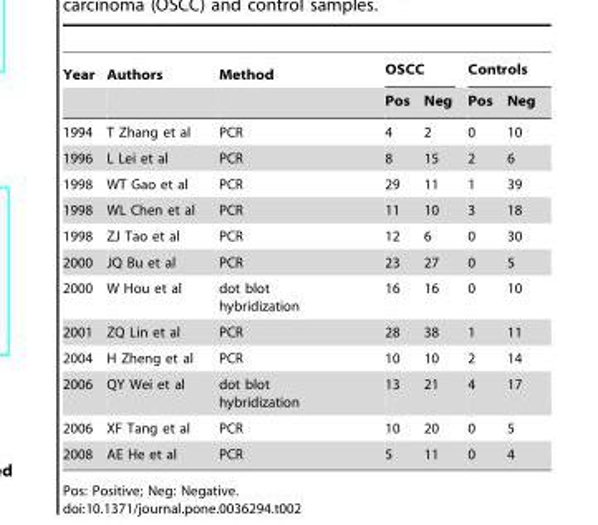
<table><thead><tr><td rowspan="2">Year</td><td rowspan="2">Authors</td><td rowspan="2">Method</td><td colspan="2">OSCC</td><td colspan="2">Controls</td></tr><tr><td>Pos</td><td>Neg</td><td>Pos</td><td>Neg</td></tr></thead><tbody><tr><td>1994</td><td>T Zhang et al</td><td>PCR</td><td>4</td><td>2</td><td>0</td><td>10</td></tr><tr><td>1996</td><td>L Lei et al</td><td>PCR</td><td>8</td><td>15</td><td>2</td><td>6</td></tr><tr><td>1998</td><td>WT Gao et al</td><td>PCR</td><td>29</td><td>11</td><td>1</td><td>39</td></tr><tr><td>1998</td><td>WL Chen et al</td><td>PCR</td><td>11</td><td>10</td><td>3</td><td>18</td></tr><tr><td>1998</td><td>ZJ Tao et al</td><td>PCR</td><td>12</td><td>6</td><td>0</td><td>30</td></tr><tr><td>2000</td><td>JQ Bu et al</td><td>PCR</td><td>23</td><td>27</td><td>0</td><td>5</td></tr><tr><td>2000</td><td>W Hou et al</td><td>dot blot hybridization</td><td>16</td><td>16</td><td>0</td><td>10</td></tr><tr><td>2001</td><td>ZQ Lin et al</td><td>PCR</td><td>28</td><td>38</td><td>1</td><td>11</td></tr><tr><td>2004</td><td>H Zheng et al</td><td>PCR</td><td>10</td><td>10</td><td>2</td><td>14</td></tr><tr><td>2006</td><td>QY Wei et al</td><td>dot blot hybridization</td><td>13</td><td>21</td><td>4</td><td>17</td></tr><tr><td>2006</td><td>XF Tang et al</td><td>PCR</td><td>10</td><td>20</td><td>0</td><td>5</td></tr><tr><td>2008</td><td>AE He et al</td><td>PCR</td><td>5</td><td>11</td><td>0</td><td>4</td></tr></tbody></table>